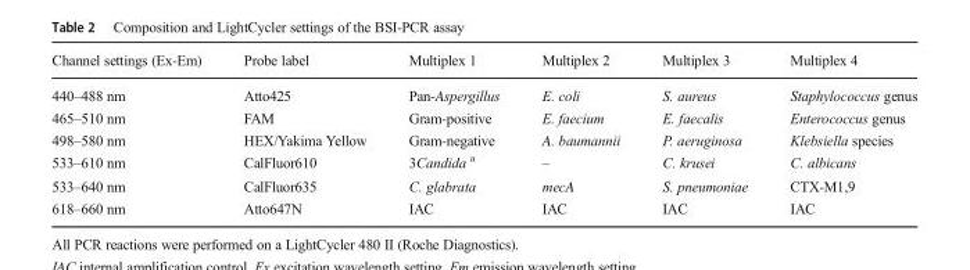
<table><thead><tr><td>Channel settings (Ex-Em)</td><td>Probe label</td><td>Multiplex 1</td><td>Multiplex 2</td><td>Multiplex 3</td><td>Multiplex 4</td></tr></thead><tbody><tr><td>440–488 nm</td><td>Atto425</td><td>Pan-Aspergillus</td><td>E. coli</td><td>S. aureus</td><td>Staphylococcus genus</td></tr><tr><td>465–510 nm</td><td>FAM</td><td>Gram-positive</td><td>E. faecium</td><td>E. faecalis</td><td>Enterococcus genus</td></tr><tr><td>498–580 nm</td><td>HEX/Yakima Yellow</td><td>Gram-negative</td><td>A. baumannii</td><td>P. aeruginosa</td><td>Klebsiella species</td></tr><tr><td>533–610 nm</td><td>CalFluor610</td><td>3Candida <sup>a</sup></td><td>–</td><td>C. krusei</td><td>C. albicans</td></tr><tr><td>533–640 nm</td><td>CalFluor635</td><td>C. glabrata</td><td>mecA</td><td>S. pneumoniae</td><td>CTX-M1,9</td></tr><tr><td>618–660 nm</td><td>Atto647N</td><td>IAC</td><td>IAC</td><td>IAC</td><td>IAC</td></tr></tbody></table>